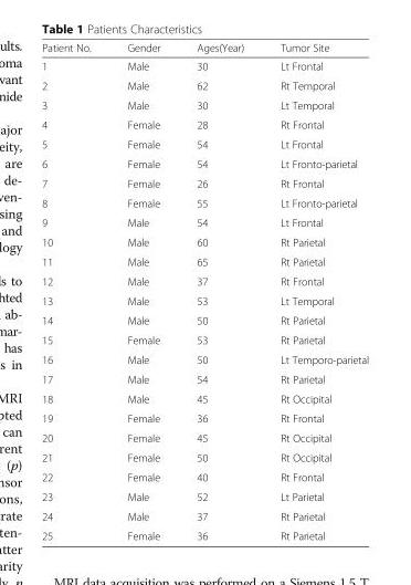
<table><thead><tr><td>Patient No.</td><td>Gender</td><td>Ages(Year)</td><td>Tumor Site</td></tr></thead><tbody><tr><td>1</td><td>Male</td><td>30</td><td>Lt Frontal</td></tr><tr><td>2</td><td>Male</td><td>62</td><td>Rt Temporal</td></tr><tr><td>3</td><td>Male</td><td>30</td><td>Lt Temporal</td></tr><tr><td>4</td><td>Female</td><td>28</td><td>Rt Frontal</td></tr><tr><td>5</td><td>Female</td><td>54</td><td>Lt Frontal</td></tr><tr><td>6</td><td>Female</td><td>54</td><td>Lt Fronto-parietal</td></tr><tr><td>7</td><td>Female</td><td>26</td><td>Rt Frontal</td></tr><tr><td>8</td><td>Female</td><td>55</td><td>Lt Fronto-parietal</td></tr><tr><td>9</td><td>Male</td><td>54</td><td>Lt Frontal</td></tr><tr><td>10</td><td>Male</td><td>60</td><td>Rt Parietal</td></tr><tr><td>11</td><td>Male</td><td>65</td><td>Rt Parietal</td></tr><tr><td>12</td><td>Male</td><td>37</td><td>Rt Frontal</td></tr><tr><td>13</td><td>Male</td><td>53</td><td>Lt Temporal</td></tr><tr><td>14</td><td>Male</td><td>50</td><td>Rt Parietal</td></tr><tr><td>15</td><td>Female</td><td>53</td><td>Rt Parietal</td></tr><tr><td>16</td><td>Male</td><td>50</td><td>Lt Temporo-parietal</td></tr><tr><td>17</td><td>Male</td><td>54</td><td>Rt Parietal</td></tr><tr><td>18</td><td>Male</td><td>45</td><td>Rt Occipital</td></tr><tr><td>19</td><td>Female</td><td>36</td><td>Rt Frontal</td></tr><tr><td>20</td><td>Female</td><td>45</td><td>Rt Occipital</td></tr><tr><td>21</td><td>Female</td><td>50</td><td>Rt Occipital</td></tr><tr><td>22</td><td>Female</td><td>40</td><td>Rt Frontal</td></tr><tr><td>23</td><td>Male</td><td>52</td><td>Lt Parietal</td></tr><tr><td>24</td><td>Male</td><td>37</td><td>Rt Parietal</td></tr><tr><td>25</td><td>Female</td><td>36</td><td>Rt Parietal</td></tr></tbody></table>